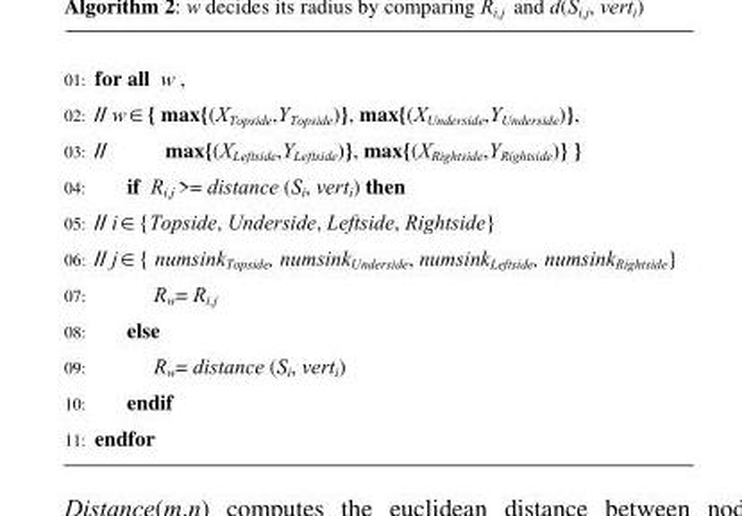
<table><tbody><tr><td>01:</td><td>for all w ,</td></tr><tr><td>02:</td><td>// w∈{ max{(X<sub>Topside</sub>,Y<sub>Topside</sub>)}, max{(X<sub>Underside</sub>,Y<sub>Underside</sub>)},</td></tr><tr><td>03:</td><td>// max{(X<sub>Leftside</sub>,Y<sub>Leftside</sub>)}, max{(X<sub>Rightside</sub>,Y<sub>Rightside</sub>)} }</td></tr><tr><td>04:</td><td>if R<sub>i,j</sub> &gt;= distance (S<sub>i</sub>, vert<sub>i</sub>) then</td></tr><tr><td>05:</td><td>// i∈{Topside, Underside, Leftside, Rightside}</td></tr><tr><td>06:</td><td>// j∈{ numsink<sub>Topside</sub>, numsink<sub>Underside</sub>, numsink<sub>Leftside</sub>, numsink<sub>Rightside</sub>}</td></tr><tr><td>07:</td><td>R<sub>w</sub>= R<sub>i,j</sub></td></tr><tr><td>08:</td><td>else</td></tr><tr><td>09:</td><td>R<sub>w</sub>= distance (S<sub>i</sub>, vert<sub>i</sub>)</td></tr><tr><td>10:</td><td>endif</td></tr><tr><td>11:</td><td>endfor</td></tr></tbody></table>